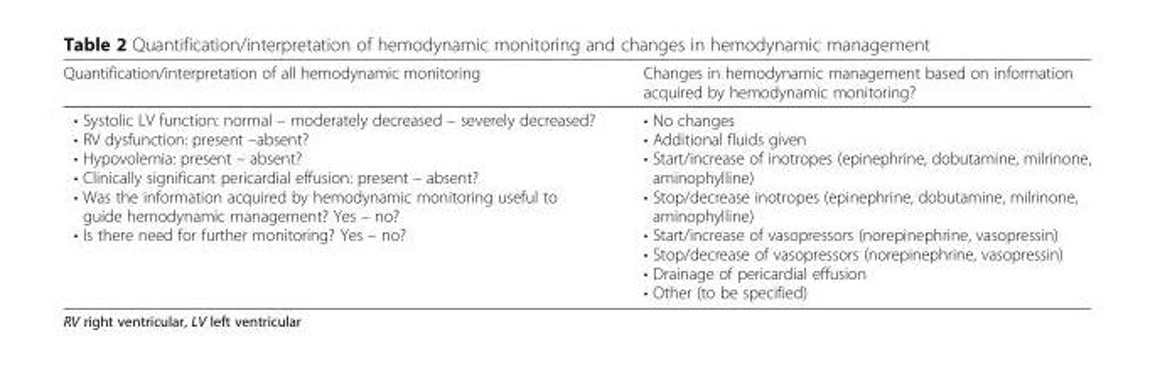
<table><thead><tr><td>Quantification/interpretation of all hemodynamic monitoring</td><td>Changes in hemodynamic management based on information acquired by hemodynamic monitoring?</td></tr></thead><tbody><tr><td>• Systolic LV function: normal – moderately decreased – severely decreased? • RV dysfunction: present –absent? • Hypovolemia: present – absent? • Clinically significant pericardial effusion: present – absent? • Was the information acquired by hemodynamic monitoring useful to guide hemodynamic management? Yes – no? • Is there need for further monitoring? Yes – no?</td><td>• No changes • Additional fluids given • Start/increase of inotropes (epinephrine, dobutamine, milrinone, aminophylline) • Stop/decrease inotropes (epinephrine, dobutamine, milrinone, aminophylline) • Start/increase of vasopressors (norepinephrine, vasopressin) • Stop/decrease of vasopressors (norepinephrine, vasopressin) • Drainage of pericardial effusion • Other (to be specified)</td></tr></tbody></table>